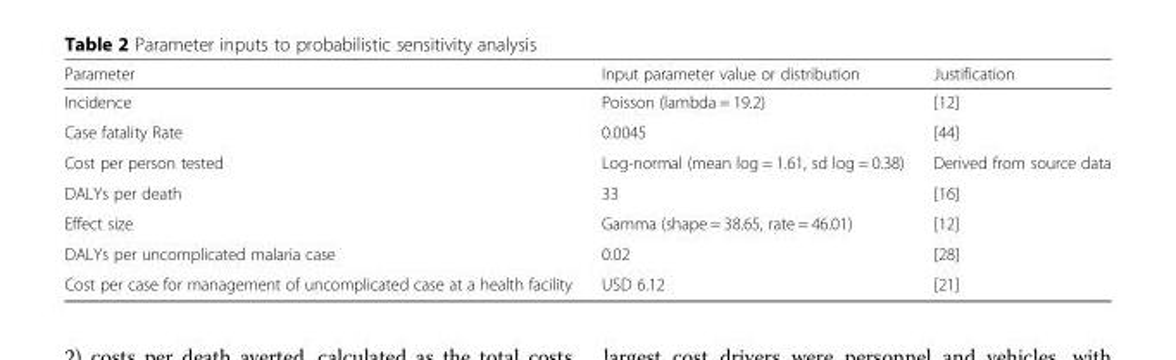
<table><thead><tr><td>Parameter</td><td>Input parameter value or distribution</td><td>Justification</td></tr></thead><tbody><tr><td>Incidence</td><td>Poisson (lambda = 19.2)</td><td>[12]</td></tr><tr><td>Case fatality Rate</td><td>0.0045</td><td>[44]</td></tr><tr><td>Cost per person tested</td><td>Log-normal (mean log = 1.61, sd log = 0.38)</td><td>Derived from source data</td></tr><tr><td>DALYs per death</td><td>33</td><td>[16]</td></tr><tr><td>Effect size</td><td>Gamma (shape = 38.65, rate = 46.01)</td><td>[12]</td></tr><tr><td>DALYs per uncomplicated malaria case</td><td>0.02</td><td>[28]</td></tr><tr><td>Cost per case for management of uncomplicated case at a health facility</td><td>USD 6.12</td><td>[21]</td></tr></tbody></table>